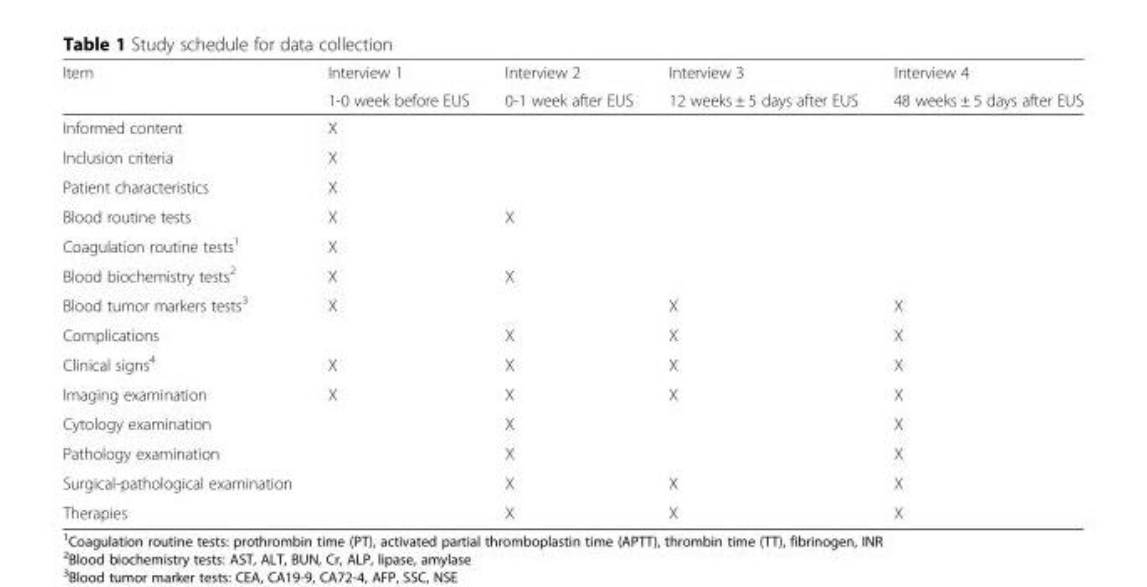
<table><thead><tr><td rowspan="2">Item</td><td rowspan="2">Interview 1 1-0 week before EUS</td><td rowspan="2">Interview 2 0-1 week after EUS</td><td rowspan="2">Interview 3 12 weeks ± 5 days after EUS</td><td rowspan="2">Interview 4 48 weeks ± 5 days after EUS</td></tr><tr></tr></thead><tbody><tr><td>Informed content</td><td>X</td><td></td><td></td><td></td></tr><tr><td>Inclusion criteria</td><td>X</td><td></td><td></td><td></td></tr><tr><td>Patient characteristics</td><td>X</td><td></td><td></td><td></td></tr><tr><td>Blood routine tests</td><td>X</td><td>X</td><td></td><td></td></tr><tr><td>Coagulation routine tests<sup>1</sup></td><td>X</td><td></td><td></td><td></td></tr><tr><td>Blood biochemistry tests<sup>2</sup></td><td>X</td><td>X</td><td></td><td></td></tr><tr><td>Blood tumor markers tests<sup>3</sup></td><td>X</td><td></td><td>X</td><td>X</td></tr><tr><td>Complications</td><td></td><td>X</td><td>X</td><td>X</td></tr><tr><td>Clinical signs<sup>4</sup></td><td>X</td><td>X</td><td>X</td><td>X</td></tr><tr><td>Imaging examination</td><td>X</td><td>X</td><td>X</td><td>X</td></tr><tr><td>Cytology examination</td><td></td><td>X</td><td></td><td>X</td></tr><tr><td>Pathology examination</td><td></td><td>X</td><td></td><td>X</td></tr><tr><td>Surgical-pathological examination</td><td></td><td>X</td><td>X</td><td>X</td></tr><tr><td>Therapies</td><td></td><td>X</td><td>X</td><td>X</td></tr></tbody></table>